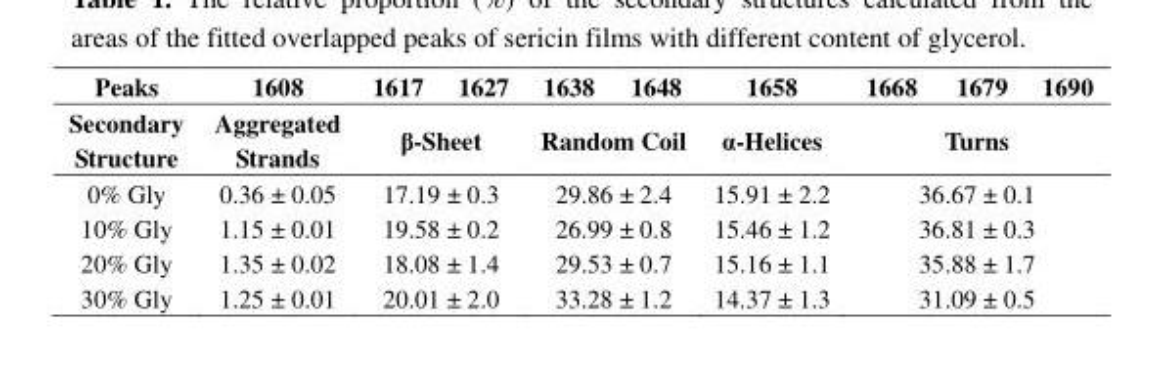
<table><thead><tr><td rowspan="2">Peaks Secondary Structure</td><td rowspan="2">1608 Aggregated Strands</td><td>1617</td><td>1627</td><td>1638</td><td>1648</td><td rowspan="2">1658 α-Helices</td><td>1668</td><td>1679</td><td>1690</td></tr><tr><td colspan="2">β-Sheet</td><td colspan="2">Random Coil</td><td colspan="3">Turns</td></tr></thead><tbody><tr><td>0% Gly</td><td>0.36 ± 0.05</td><td colspan="2">17.19 ± 0.3</td><td colspan="2">29.86 ± 2.4</td><td>15.91 ± 2.2</td><td colspan="3">36.67 ± 0.1</td></tr><tr><td>10% Gly</td><td>1.15 ± 0.01</td><td colspan="2">19.58 ± 0.2</td><td colspan="2">26.99 ± 0.8</td><td>15.46 ± 1.2</td><td colspan="3">36.81 ± 0.3</td></tr><tr><td>20% Gly</td><td>1.35 ± 0.02</td><td colspan="2">18.08 ± 1.4</td><td colspan="2">29.53 ± 0.7</td><td>15.16 ± 1.1</td><td colspan="3">35.88 ± 1.7</td></tr><tr><td>30% Gly</td><td>1.25 ± 0.01</td><td colspan="2">20.01 ± 2.0</td><td colspan="2">33.28 ± 1.2</td><td>14.37 ± 1.3</td><td colspan="3">31.09 ± 0.5</td></tr></tbody></table>